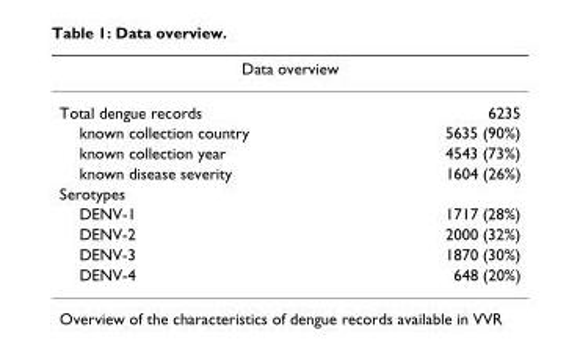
<table><thead><tr><td colspan="2">Data overview</td></tr><tr><td>Total dengue records</td><td>6235</td></tr></thead><tbody><tr><td>known collection country</td><td>5635 (90%)</td></tr><tr><td>known collection year</td><td>4543 (73%)</td></tr><tr><td>known disease severity</td><td>1604 (26%)</td></tr><tr><td colspan="2">Serotypes</td></tr><tr><td>DENV-1</td><td>1717 (28%)</td></tr><tr><td>DENV-2</td><td>2000 (32%)</td></tr><tr><td>DENV-3</td><td>1870 (30%)</td></tr><tr><td>DENV-4</td><td>648 (20%)</td></tr></tbody></table>